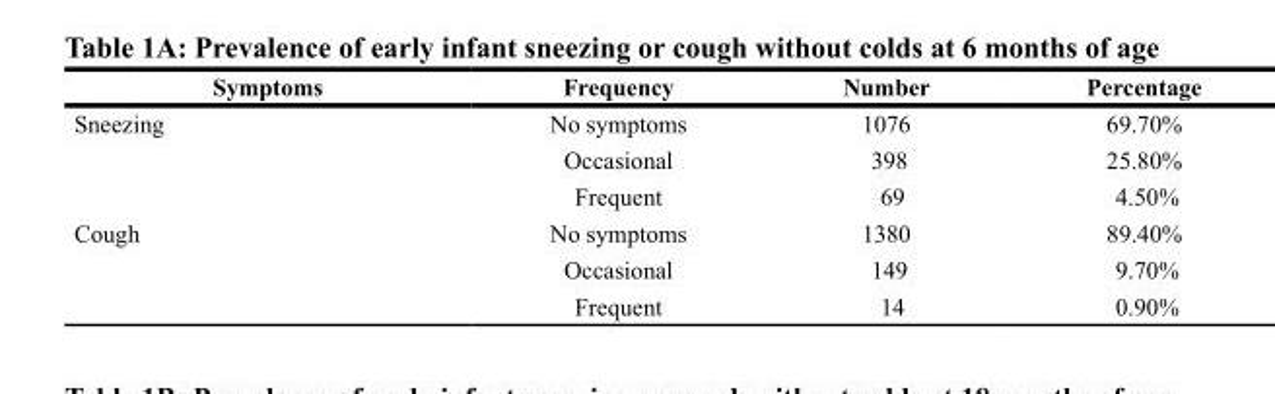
<table><thead><tr><td>Symptoms</td><td>Frequency</td><td>Number</td><td>Percentage</td></tr></thead><tbody><tr><td rowspan="3">Sneezing</td><td>No symptoms</td><td>1076</td><td>69.70%</td></tr><tr><td>Occasional</td><td>398</td><td>25.80%</td></tr><tr><td>Frequent</td><td>69</td><td>4.50%</td></tr><tr><td rowspan="3">Cough</td><td>No symptoms</td><td>1380</td><td>89.40%</td></tr><tr><td>Occasional</td><td>149</td><td>9.70%</td></tr><tr><td>Frequent</td><td>14</td><td>0.90%</td></tr></tbody></table>